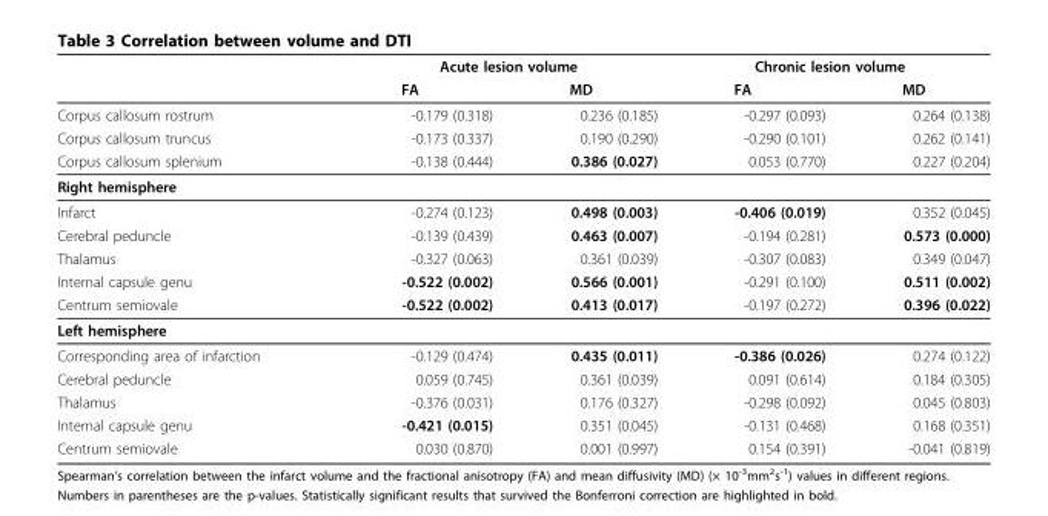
<table><thead><tr><td rowspan="2"></td><td colspan="2">Acute lesion volume</td><td colspan="2">Chronic lesion volume</td></tr><tr><td>FA</td><td>MD</td><td>FA</td><td>MD</td></tr></thead><tbody><tr><td>Corpus callosum rostrum</td><td>-0.179 (0.318)</td><td>0.236 (0.185)</td><td>-0.297 (0.093)</td><td>0.264 (0.138)</td></tr><tr><td>Corpus callosum truncus</td><td>-0.173 (0.337)</td><td>0.190 (0.290)</td><td>-0.290 (0.101)</td><td>0.262 (0.141)</td></tr><tr><td>Corpus callosum splenium</td><td>-0.138 (0.444)</td><td>0.386 (0.027)</td><td>0.053 (0.770)</td><td>0.227 (0.204)</td></tr><tr><td colspan="5">Right hemisphere</td></tr><tr><td>Infarct</td><td>-0.274 (0.123)</td><td>0.498 (0.003)</td><td>-0.406 (0.019)</td><td>0.352 (0.045)</td></tr><tr><td>Cerebral peduncle</td><td>-0.139 (0.439)</td><td>0.463 (0.007)</td><td>-0.194 (0.281)</td><td>0.573 (0.000)</td></tr><tr><td>Thalamus</td><td>-0.327 (0.063)</td><td>0.361 (0.039)</td><td>-0.307 (0.083)</td><td>0.349 (0.047)</td></tr><tr><td>Internal capsule genu</td><td>-0.522 (0.002)</td><td>0.566 (0.001)</td><td>-0.291 (0.100)</td><td>0.511 (0.002)</td></tr><tr><td>Centrum semiovale</td><td>-0.522 (0.002)</td><td>0.413 (0.017)</td><td>-0.197 (0.272)</td><td>0.396 (0.022)</td></tr><tr><td colspan="5">Left hemisphere</td></tr><tr><td>Corresponding area of infarction</td><td>-0.129 (0.474)</td><td>0.435 (0.011)</td><td>-0.386 (0.026)</td><td>0.274 (0.122)</td></tr><tr><td>Cerebral peduncle</td><td>0.059 (0.745)</td><td>0.361 (0.039)</td><td>0.091 (0.614)</td><td>0.184 (0.305)</td></tr><tr><td>Thalamus</td><td>-0.376 (0.031)</td><td>0.176 (0.327)</td><td>-0.298 (0.092)</td><td>0.045 (0.803)</td></tr><tr><td>Internal capsule genu</td><td>-0.421 (0.015)</td><td>0.351 (0.045)</td><td>-0.131 (0.468)</td><td>0.168 (0.351)</td></tr><tr><td>Centrum semiovale</td><td>0.030 (0.870)</td><td>0.001 (0.997)</td><td>0.154 (0.391)</td><td>-0.041 (0.819)</td></tr></tbody></table>